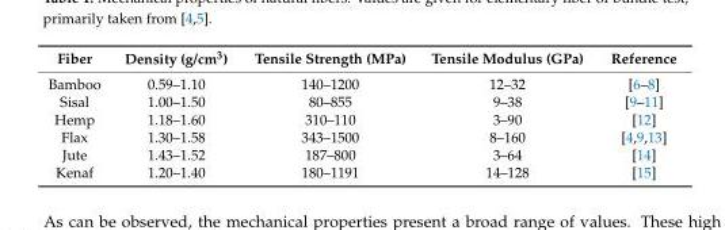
<table><thead><tr><td>Fiber</td><td>Density (g/cm<sup>3</sup>)</td><td>Tensile Strength (MPa)</td><td>Tensile Modulus (GPa)</td><td>Reference</td></tr></thead><tbody><tr><td>Bamboo</td><td>0.59–1.10</td><td>140–1200</td><td>12–32</td><td>[6–8]</td></tr><tr><td>Sisal</td><td>1.00–1.50</td><td>80–855</td><td>9–38</td><td>[9–11]</td></tr><tr><td>Hemp</td><td>1.18–1.60</td><td>310–110</td><td>3–90</td><td>[12]</td></tr><tr><td>Flax</td><td>1.30–1.58</td><td>343–1500</td><td>8–160</td><td>[4,9,13]</td></tr><tr><td>Jute</td><td>1.43–1.52</td><td>187–800</td><td>3–64</td><td>[14]</td></tr><tr><td>Kenaf</td><td>1.20–1.40</td><td>180–1191</td><td>14–128</td><td>[15]</td></tr></tbody></table>